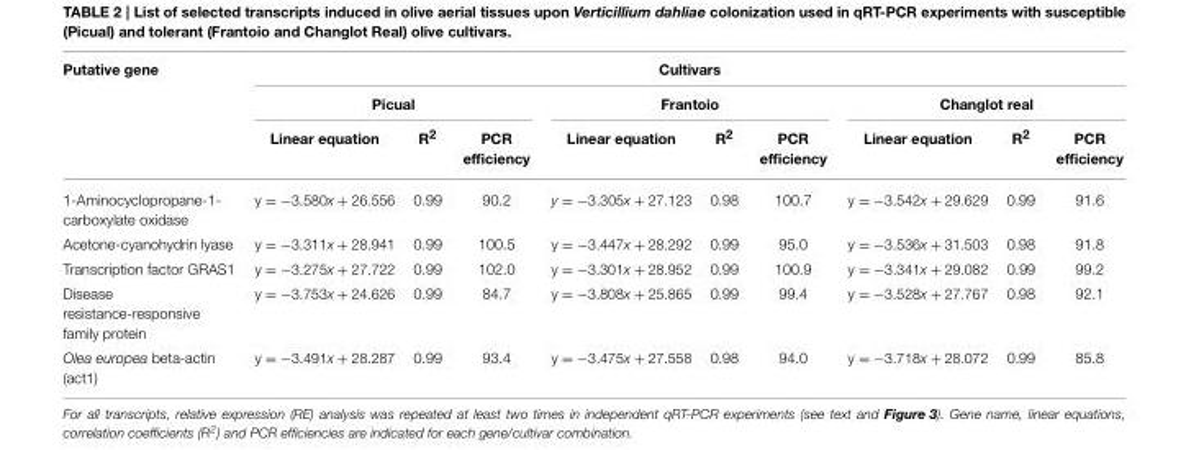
<table><thead><tr><td rowspan="3">Putative gene</td><td colspan="9">Cultivars</td></tr><tr><td colspan="3">Picual</td><td colspan="3">Frantoio</td><td colspan="3">Changlot real</td></tr><tr><td>Linear equation</td><td>R<sup>2</sup></td><td>PCR efficiency</td><td>Linear equation</td><td>R<sup>2</sup></td><td>PCR efficiency</td><td>Linear equation</td><td>R<sup>2</sup></td><td>PCR efficiency</td></tr></thead><tbody><tr><td>1-Aminocyclopropane-1- carboxylate oxidase</td><td>y = −3.580x + 26.556</td><td>0.99</td><td>90.2</td><td>y = −3.305x + 27.123</td><td>0.98</td><td>100.7</td><td>y = −3.542x + 29.629</td><td>0.99</td><td>91.6</td></tr><tr><td>Acetone-cyanohydrin lyase</td><td>y = −3.311x + 28.941</td><td>0.99</td><td>100.5</td><td>y = −3.447x + 28.292</td><td>0.99</td><td>95.0</td><td>y = −3.536x + 31.503</td><td>0.98</td><td>91.8</td></tr><tr><td>Transcription factor GRAS1</td><td>y = −3.275x + 27.722</td><td>0.99</td><td>102.0</td><td>y = −3.301x + 28.952</td><td>0.99</td><td>100.9</td><td>y = −3.341x + 29.082</td><td>0.99</td><td>99.2</td></tr><tr><td>Disease resistance-responsive family protein</td><td>y = −3.753x + 24.626</td><td>0.99</td><td>84.7</td><td>y = −3.808x + 25.865</td><td>0.99</td><td>99.4</td><td>y = −3.528x + 27.767</td><td>0.98</td><td>92.1</td></tr><tr><td>Olea europea beta-actin (act1)</td><td>y = −3.491x + 28.287</td><td>0.99</td><td>93.4</td><td>y = −3.475x + 27.558</td><td>0.98</td><td>94.0</td><td>y = −3.718x + 28.072</td><td>0.99</td><td>85.8</td></tr></tbody></table>